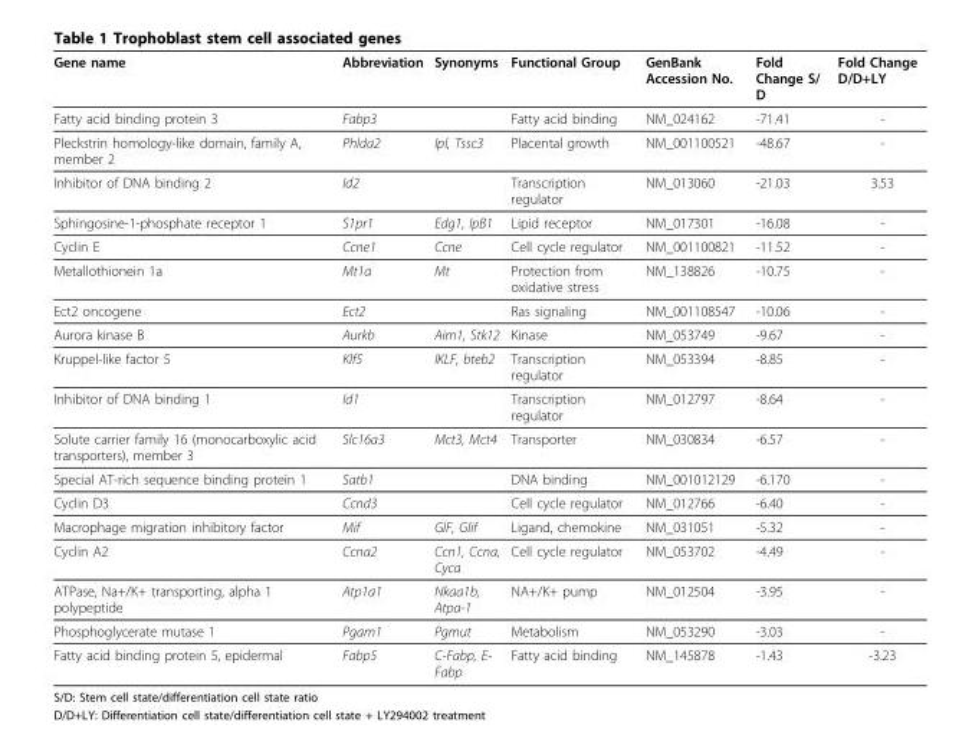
<table><thead><tr><td>Gene name</td><td>Abbreviation</td><td>Synonyms</td><td>Functional Group</td><td>GenBank Accession No.</td><td>Fold Change S/ D</td><td>Fold Change D/D+LY</td></tr></thead><tbody><tr><td>Fatty acid binding protein 3</td><td>Fabp3</td><td></td><td>Fatty acid binding</td><td>NM_024162</td><td>-71.41</td><td>-</td></tr><tr><td>Pleckstrin homology-like domain, family A, member 2</td><td>Phlda2</td><td>Ipl, Tssc3</td><td>Placental growth</td><td>NM_001100521</td><td>-48.67</td><td>-</td></tr><tr><td>Inhibitor of DNA binding 2</td><td>Id2</td><td></td><td>Transcription regulator</td><td>NM_013060</td><td>-21.03</td><td>3.53</td></tr><tr><td>Sphingosine-1-phosphate receptor 1</td><td>S1pr1</td><td>Edg1, IpB1</td><td>Lipid receptor</td><td>NM_017301</td><td>-16.08</td><td>-</td></tr><tr><td>Cyclin E</td><td>Ccne1</td><td>Ccne</td><td>Cell cycle regulator</td><td>NM_001100821</td><td>-11.52</td><td>-</td></tr><tr><td>Metallothionein 1a</td><td>Mt1a</td><td>Mt</td><td>Protection from oxidative stress</td><td>NM_138826</td><td>-10.75</td><td>-</td></tr><tr><td>Ect2 oncogene</td><td>Ect2</td><td></td><td>Ras signaling</td><td>NM_001108547</td><td>-10.06</td><td>-</td></tr><tr><td>Aurora kinase B</td><td>Aurkb</td><td>Aim1, Stk12</td><td>Kinase</td><td>NM_053749</td><td>-9.67</td><td>-</td></tr><tr><td>Kruppel-like factor 5</td><td>Klf5</td><td>IKLF, bteb2</td><td>Transcription regulator</td><td>NM_053394</td><td>-8.85</td><td>-</td></tr><tr><td>Inhibitor of DNA binding 1</td><td>Id1</td><td></td><td>Transcription regulator</td><td>NM_012797</td><td>-8.64</td><td>-</td></tr><tr><td>Solute carrier family 16 (monocarboxylic acid transporters), member 3</td><td>Slc16a3</td><td>Mct3, Mct4</td><td>Transporter</td><td>NM_030834</td><td>-6.57</td><td>-</td></tr><tr><td>Special AT-rich sequence binding protein 1</td><td>Satb1</td><td></td><td>DNA binding</td><td>NM_001012129</td><td>-6.170</td><td>-</td></tr><tr><td>Cyclin D3</td><td>Ccnd3</td><td></td><td>Cell cycle regulator</td><td>NM_012766</td><td>-6.40</td><td>-</td></tr><tr><td>Macrophage migration inhibitory factor</td><td>Mif</td><td>GIF, Glif</td><td>Ligand, chemokine</td><td>NM_031051</td><td>-5.32</td><td>-</td></tr><tr><td>Cyclin A2</td><td>Ccna2</td><td>Ccn1, Ccna, Cyca</td><td>Cell cycle regulator</td><td>NM_053702</td><td>-4.49</td><td>-</td></tr><tr><td>ATPase, Na+/K+ transporting, alpha 1 polypeptide</td><td>Atp1a1</td><td>Nkaa1b, Atpa-1</td><td>NA+/K+ pump</td><td>NM_012504</td><td>-3.95</td><td>-</td></tr><tr><td>Phosphoglycerate mutase 1</td><td>Pgam1</td><td>Pgmut</td><td>Metabolism</td><td>NM_053290</td><td>-3.03</td><td>-</td></tr><tr><td>Fatty acid binding protein 5, epidermal</td><td>Fabp5</td><td>C-Fabp, E- Fabp</td><td>Fatty acid binding</td><td>NM_145878</td><td>-1.43</td><td>-3.23</td></tr></tbody></table>